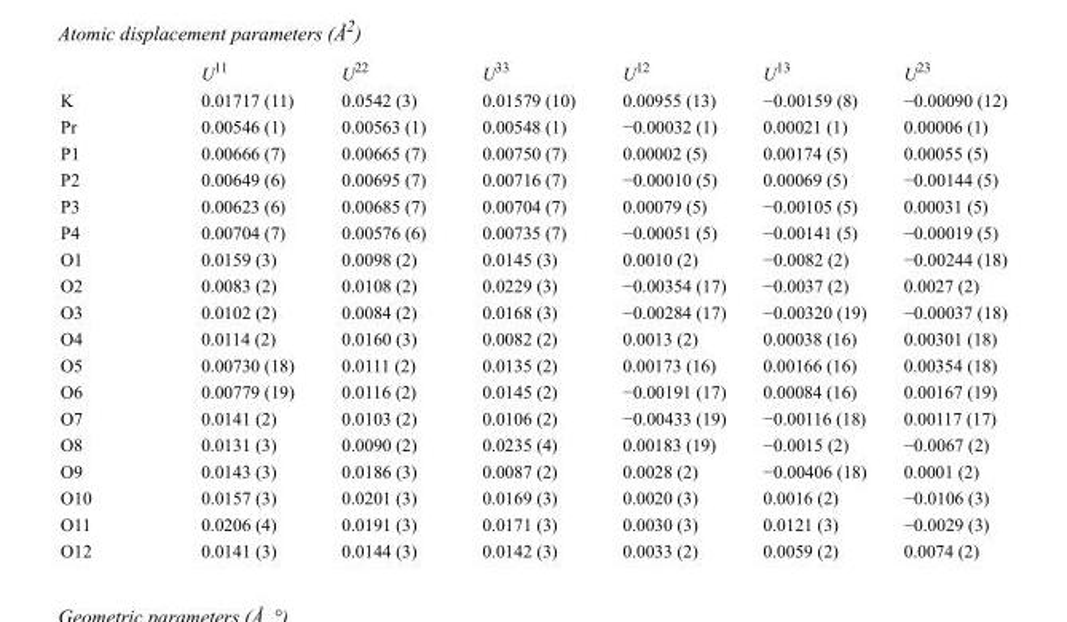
<table><thead><tr><td></td><td>U<sup>11</sup></td><td>U<sup>22</sup></td><td>U<sup>33</sup></td><td>U<sup>12</sup></td><td>U<sup>13</sup></td><td>U<sup>23</sup></td></tr></thead><tbody><tr><td>K</td><td>0.01717 (11)</td><td>0.0542 (3)</td><td>0.01579 (10)</td><td>0.00955 (13)</td><td>−0.00159 (8)</td><td>−0.00090 (12)</td></tr><tr><td>Pr</td><td>0.00546 (1)</td><td>0.00563 (1)</td><td>0.00548 (1)</td><td>−0.00032 (1)</td><td>0.00021 (1)</td><td>0.00006 (1)</td></tr><tr><td>P1</td><td>0.00666 (7)</td><td>0.00665 (7)</td><td>0.00750 (7)</td><td>0.00002 (5)</td><td>0.00174 (5)</td><td>0.00055 (5)</td></tr><tr><td>P2</td><td>0.00649 (6)</td><td>0.00695 (7)</td><td>0.00716 (7)</td><td>−0.00010 (5)</td><td>0.00069 (5)</td><td>−0.00144 (5)</td></tr><tr><td>P3</td><td>0.00623 (6)</td><td>0.00685 (7)</td><td>0.00704 (7)</td><td>0.00079 (5)</td><td>−0.00105 (5)</td><td>0.00031 (5)</td></tr><tr><td>P4</td><td>0.00704 (7)</td><td>0.00576 (6)</td><td>0.00735 (7)</td><td>−0.00051 (5)</td><td>−0.00141 (5)</td><td>−0.00019 (5)</td></tr><tr><td>O1</td><td>0.0159 (3)</td><td>0.0098 (2)</td><td>0.0145 (3)</td><td>0.0010 (2)</td><td>−0.0082 (2)</td><td>−0.00244 (18)</td></tr><tr><td>O2</td><td>0.0083 (2)</td><td>0.0108 (2)</td><td>0.0229 (3)</td><td>−0.00354 (17)</td><td>−0.0037 (2)</td><td>0.0027 (2)</td></tr><tr><td>O3</td><td>0.0102 (2)</td><td>0.0084 (2)</td><td>0.0168 (3)</td><td>−0.00284 (17)</td><td>−0.00320 (19)</td><td>−0.00037 (18)</td></tr><tr><td>O4</td><td>0.0114 (2)</td><td>0.0160 (3)</td><td>0.0082 (2)</td><td>0.0013 (2)</td><td>0.00038 (16)</td><td>0.00301 (18)</td></tr><tr><td>O5</td><td>0.00730 (18)</td><td>0.0111 (2)</td><td>0.0135 (2)</td><td>0.00173 (16)</td><td>0.00166 (16)</td><td>0.00354 (18)</td></tr><tr><td>O6</td><td>0.00779 (19)</td><td>0.0116 (2)</td><td>0.0145 (2)</td><td>−0.00191 (17)</td><td>0.00084 (16)</td><td>0.00167 (19)</td></tr><tr><td>O7</td><td>0.0141 (2)</td><td>0.0103 (2)</td><td>0.0106 (2)</td><td>−0.00433 (19)</td><td>−0.00116 (18)</td><td>0.00117 (17)</td></tr><tr><td>O8</td><td>0.0131 (3)</td><td>0.0090 (2)</td><td>0.0235 (4)</td><td>0.00183 (19)</td><td>−0.0015 (2)</td><td>−0.0067 (2)</td></tr><tr><td>O9</td><td>0.0143 (3)</td><td>0.0186 (3)</td><td>0.0087 (2)</td><td>0.0028 (2)</td><td>−0.00406 (18)</td><td>0.0001 (2)</td></tr><tr><td>O10</td><td>0.0157 (3)</td><td>0.0201 (3)</td><td>0.0169 (3)</td><td>0.0020 (3)</td><td>0.0016 (2)</td><td>−0.0106 (3)</td></tr><tr><td>O11</td><td>0.0206 (4)</td><td>0.0191 (3)</td><td>0.0171 (3)</td><td>0.0030 (3)</td><td>0.0121 (3)</td><td>−0.0029 (3)</td></tr><tr><td>O12</td><td>0.0141 (3)</td><td>0.0144 (3)</td><td>0.0142 (3)</td><td>0.0033 (2)</td><td>0.0059 (2)</td><td>0.0074 (2)</td></tr></tbody></table>